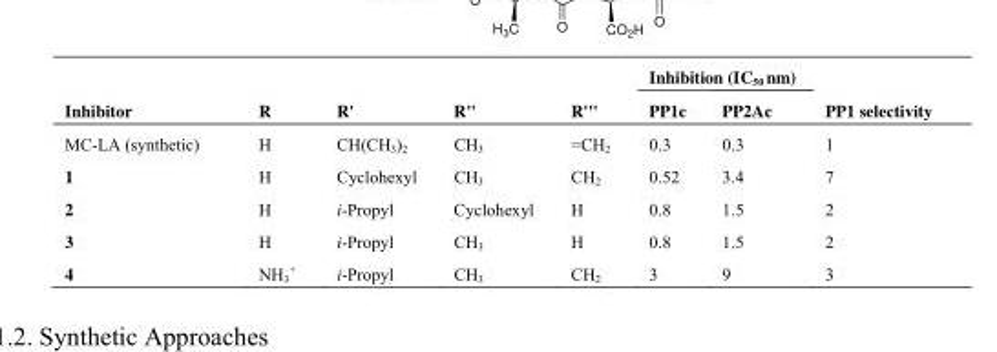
<table><thead><tr><td rowspan="2">Inhibitor</td><td rowspan="2">R</td><td rowspan="2">R&#x27;</td><td rowspan="2">R&#x27;&#x27;</td><td rowspan="2">R&#x27;&#x27;&#x27;</td><td colspan="2">Inhibition (IC<sub>50</sub> nm)</td><td rowspan="2">PP1 selectivity</td></tr><tr><td>PP1c</td><td>PP2Ac</td></tr></thead><tbody><tr><td>MC-LA (synthetic)</td><td>H</td><td>CH(CH<sub>3</sub>)<sub>2</sub></td><td>CH<sub>3</sub></td><td>=CH<sub>2</sub></td><td>0.3</td><td>0.3</td><td>1</td></tr><tr><td>1</td><td>H</td><td>Cyclohexyl</td><td>CH<sub>3</sub></td><td>CH<sub>2</sub></td><td>0.52</td><td>3.4</td><td>7</td></tr><tr><td>2</td><td>H</td><td>i-Propyl</td><td>Cyclohexyl</td><td>H</td><td>0.8</td><td>1.5</td><td>2</td></tr><tr><td>3</td><td>H</td><td>i-Propyl</td><td>CH<sub>3</sub></td><td>H</td><td>0.8</td><td>1.5</td><td>2</td></tr><tr><td>4</td><td>NH<sub>3</sub> <sup>+</sup></td><td>i-Propyl</td><td>CH<sub>3</sub></td><td>CH<sub>2</sub></td><td>3</td><td>9</td><td>3</td></tr></tbody></table>